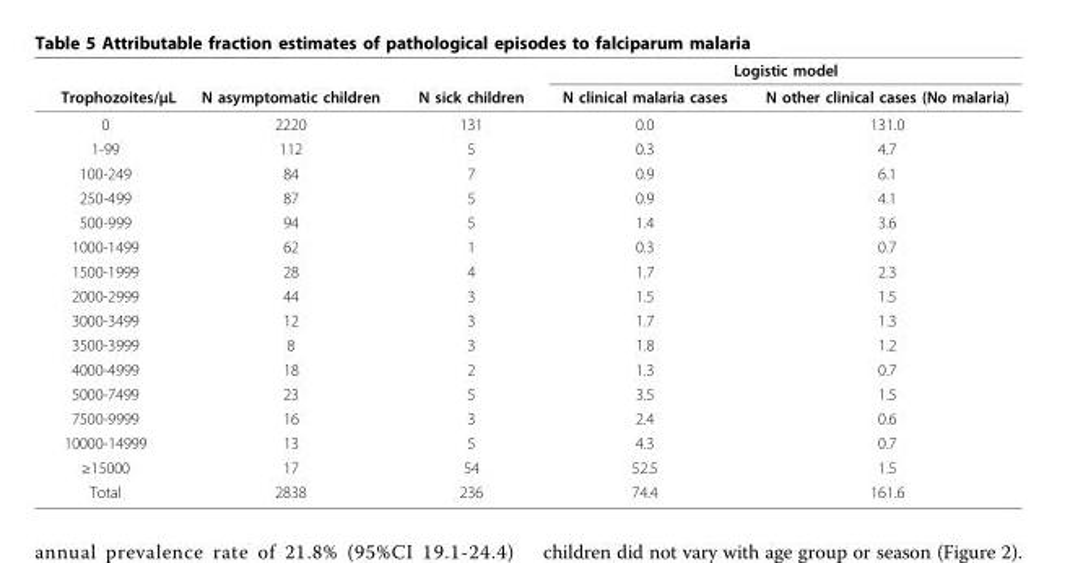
<table><thead><tr><td rowspan="2">Trophozoites/μL</td><td rowspan="2">N asymptomatic children</td><td rowspan="2">N sick children</td><td colspan="2">Logistic model</td></tr><tr><td>N clinical malaria cases</td><td>N other clinical cases (No malaria)</td></tr></thead><tbody><tr><td>0</td><td>2220</td><td>131</td><td>0.0</td><td>131.0</td></tr><tr><td>1-99</td><td>112</td><td>5</td><td>0.3</td><td>4.7</td></tr><tr><td>100-249</td><td>84</td><td>7</td><td>0.9</td><td>6.1</td></tr><tr><td>250-499</td><td>87</td><td>5</td><td>0.9</td><td>4.1</td></tr><tr><td>500-999</td><td>94</td><td>5</td><td>1.4</td><td>3.6</td></tr><tr><td>1000-1499</td><td>62</td><td>1</td><td>0.3</td><td>0.7</td></tr><tr><td>1500-1999</td><td>28</td><td>4</td><td>1.7</td><td>2.3</td></tr><tr><td>2000-2999</td><td>44</td><td>3</td><td>1.5</td><td>1.5</td></tr><tr><td>3000-3499</td><td>12</td><td>3</td><td>1.7</td><td>1.3</td></tr><tr><td>3500-3999</td><td>8</td><td>3</td><td>1.8</td><td>1.2</td></tr><tr><td>4000-4999</td><td>18</td><td>2</td><td>1.3</td><td>0.7</td></tr><tr><td>5000-7499</td><td>23</td><td>5</td><td>3.5</td><td>1.5</td></tr><tr><td>7500-9999</td><td>16</td><td>3</td><td>2.4</td><td>0.6</td></tr><tr><td>10000-14999</td><td>13</td><td>5</td><td>4.3</td><td>0.7</td></tr><tr><td>≥15000</td><td>17</td><td>54</td><td>52.5</td><td>1.5</td></tr><tr><td>Total</td><td>2838</td><td>236</td><td>74.4</td><td>161.6</td></tr></tbody></table>